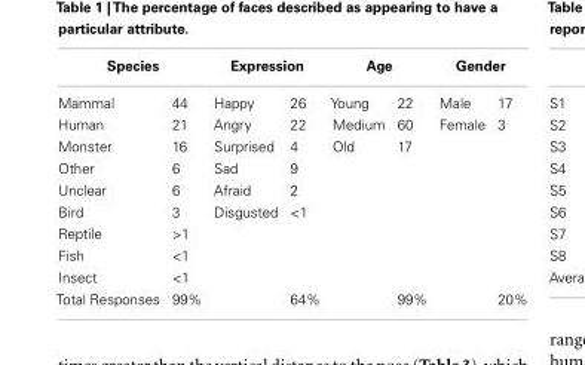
<table><thead><tr><td colspan="2">Species</td><td colspan="2">Expression</td><td colspan="2">Age</td><td colspan="2">Gender</td></tr><tr><td>Mammal</td><td>44</td><td>Happy</td><td>26</td><td>Young</td><td>22</td><td>Male</td><td>17</td></tr></thead><tbody><tr><td>Human</td><td>21</td><td>Angry</td><td>22</td><td>Medium</td><td>60</td><td>Female</td><td>3</td></tr><tr><td>Monster</td><td>16</td><td>Surprised</td><td>4</td><td>Old</td><td>17</td><td></td><td></td></tr><tr><td>Other</td><td>6</td><td>Sad</td><td>9</td><td></td><td></td><td></td><td></td></tr><tr><td>Unclear</td><td>6</td><td>Afraid</td><td>2</td><td></td><td></td><td></td><td></td></tr><tr><td>Bird</td><td>3</td><td>Disgusted</td><td>&lt;1</td><td></td><td></td><td></td><td></td></tr><tr><td>Reptile</td><td>&gt;1</td><td></td><td></td><td></td><td></td><td></td><td></td></tr><tr><td>Fish</td><td>&lt;1</td><td></td><td></td><td></td><td></td><td></td><td></td></tr><tr><td>Insect</td><td>&lt;1</td><td></td><td></td><td></td><td></td><td></td><td></td></tr><tr><td>Total Responses</td><td>99%</td><td></td><td>64%</td><td></td><td>99%</td><td></td><td>20%</td></tr></tbody></table>